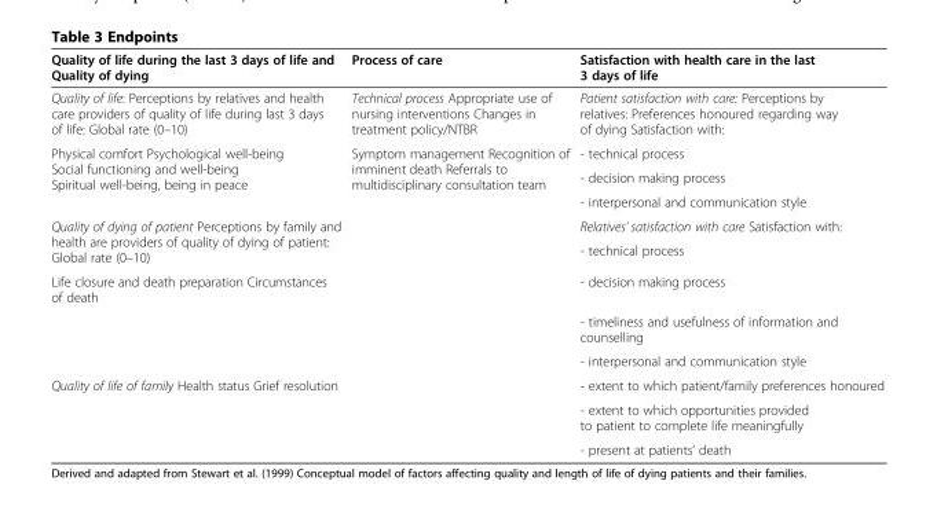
<table><thead><tr><td>Quality of life during the last 3 days of life and Quality of dying</td><td>Process of care</td><td>Satisfaction with health care in the last 3 days of life</td></tr></thead><tbody><tr><td>Quality of life: Perceptions by relatives and health care providers of quality of life during last 3 days of life: Global rate (0–10)</td><td>Technical process Appropriate use of nursing interventions Changes in treatment policy/NTBR</td><td>Patient satisfaction with care: Perceptions by relatives: Preferences honoured regarding way of dying Satisfaction with:</td></tr><tr><td rowspan="3">Physical comfort Psychological well-being Social functioning and well-being Spiritual well-being, being in peace</td><td rowspan="3">Symptom management Recognition of imminent death Referrals to multidisciplinary consultation team</td><td>- technical process</td></tr><tr><td>- decision making process</td></tr><tr><td>- interpersonal and communication style</td></tr><tr><td rowspan="2">Quality of dying of patient Perceptions by family and health are providers of quality of dying of patient: Global rate (0–10)</td><td rowspan="5"></td><td>Relatives’ satisfaction with care Satisfaction with:</td></tr><tr><td>- technical process</td></tr><tr><td rowspan="3">Life closure and death preparation Circumstances of death</td><td>- decision making process</td></tr><tr><td>- timeliness and usefulness of information and counselling</td></tr><tr><td>- interpersonal and communication style</td></tr><tr><td rowspan="3">Quality of life of family Health status Grief resolution</td><td></td><td>- extent to which patient/family preferences honoured</td></tr><tr><td></td><td>- extent to which opportunities provided to patient to complete life meaningfully</td></tr><tr><td></td><td>- present at patients’ death</td></tr></tbody></table>